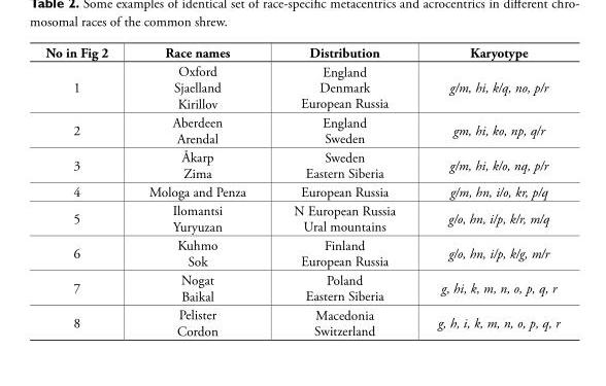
<table><thead><tr><td>No in Fig 2</td><td>Race names</td><td>Distribution</td><td>Karyotype</td></tr></thead><tbody><tr><td>1</td><td>Oxford Sjaelland Kirillov</td><td>England Denmark European Russia</td><td>g/m, hi, k/q, no, p/r</td></tr><tr><td>2</td><td>Aberdeen Arendal</td><td>England Sweden</td><td>gm, hi, ko, np, q/r</td></tr><tr><td>3</td><td>Åkarp Zima</td><td>Sweden Eastern Siberia</td><td>g/m, hi, k/o, nq, p/r</td></tr><tr><td>4</td><td>Mologa and Penza</td><td>European Russia</td><td>g/m, hn, i/o, kr, p/q</td></tr><tr><td>5</td><td>Ilomantsi Yuryuzan</td><td>N European Russia Ural mountains</td><td>g/o, hn, i/p, k/r, m/q</td></tr><tr><td>6</td><td>Kuhmo Sok</td><td>Finland European Russia</td><td>g/o, hn, i/p, k/g, m/r</td></tr><tr><td>7</td><td>Nogat Baikal</td><td>Poland Eastern Siberia</td><td>g, hi, k, m, n, o, p, q, r</td></tr><tr><td>8</td><td>Pelister Cordon</td><td>Macedonia Switzerland</td><td>g, h, i, k, m, n, o, p, q, r</td></tr></tbody></table>